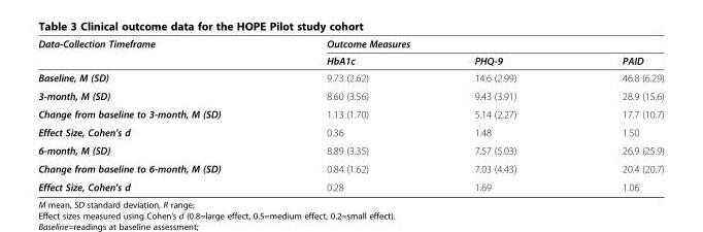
<table><thead><tr><td rowspan="2">Data-Collection Timeframe</td><td colspan="3">Outcome Measures</td></tr><tr><td>HbA1c</td><td>PHQ-9</td><td>PAID</td></tr></thead><tbody><tr><td>Baseline, M (SD)</td><td>9.73 (2.62)</td><td>14.6 (2.99)</td><td>46.8 (6.29)</td></tr><tr><td>3-month, M (SD)</td><td>8.60 (3.56)</td><td>9.43 (3.91)</td><td>28.9 (15.6)</td></tr><tr><td>Change from baseline to 3-month, M (SD)</td><td>1.13 (1.70)</td><td>5.14 (2.27)</td><td>17.7 (10.7)</td></tr><tr><td>Effect Size, Cohen’s d</td><td>0.36</td><td>1.48</td><td>1.50</td></tr><tr><td>6-month, M (SD)</td><td>8.89 (3.35)</td><td>7.57 (5.03)</td><td>26.9 (25.9)</td></tr><tr><td>Change from baseline to 6-month, M (SD)</td><td>0.84 (1.62)</td><td>7.03 (4.43)</td><td>20.4 (20.7)</td></tr><tr><td>Effect Size, Cohen’s d</td><td>0.28</td><td>1.69</td><td>1.06</td></tr></tbody></table>